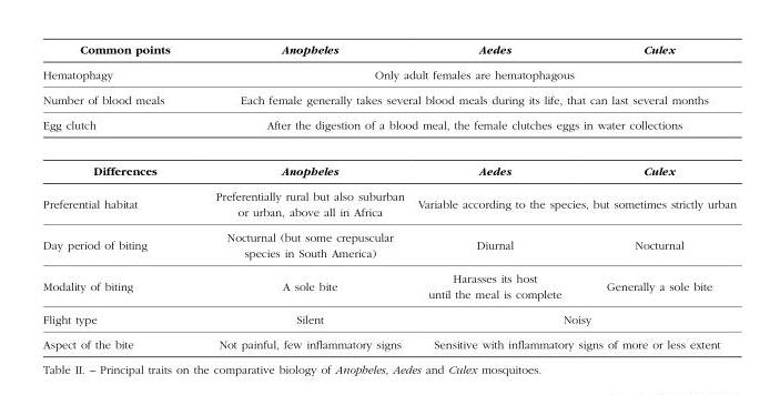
<table><thead><tr><td>Common points</td><td>Anopheles</td><td>Aedes</td><td>Culex</td></tr></thead><tbody><tr><td>Hematophagy</td><td colspan="3">Only adult females are hematophagous</td></tr><tr><td>Number of blood meals</td><td colspan="3">Each female generally takes several blood meals during its life, that can last several months</td></tr><tr><td>Egg clutch</td><td colspan="3">After the digestion of a blood meal, the female clutches eggs in water collections</td></tr><tr><td>Differences</td><td>Anopheles</td><td>Aedes</td><td>Culex</td></tr><tr><td>Preferential habitat</td><td>Preferentially rural but also suburban or urban, above all in Africa</td><td colspan="2">Variable according to the species, but sometimes strictly urban</td></tr><tr><td>Day period of biting</td><td>Nocturnal (but some crepuscular species in South America)</td><td>Diurnal</td><td>Nocturnal</td></tr><tr><td>Modality of biting</td><td>A sole bite</td><td>Harasses its host until the meal is complete</td><td>Generally a sole bite</td></tr><tr><td>Flight type</td><td>Silent</td><td colspan="2">Noisy</td></tr><tr><td>Aspect of the bite</td><td>Not painful, few inflammatory signs</td><td colspan="2">Sensitive with inflammatory signs of more or less extent</td></tr></tbody></table>